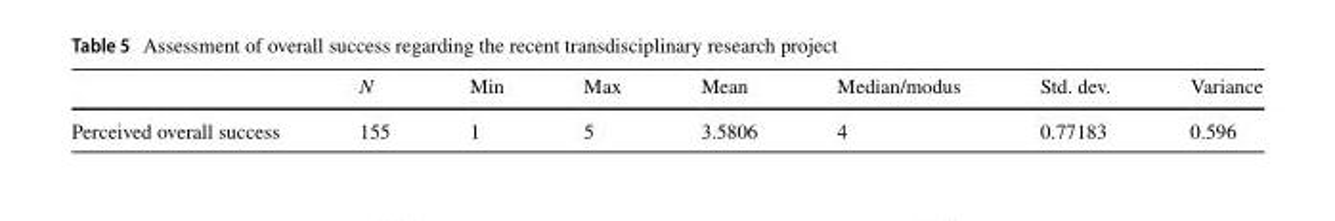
<table><thead><tr><td></td><td>N</td><td>Min</td><td>Max</td><td>Mean</td><td>Median/modus</td><td>Std. dev.</td><td>Variance</td></tr></thead><tbody><tr><td>Perceived overall success</td><td>155</td><td>1</td><td>5</td><td>3.5806</td><td>4</td><td>0.77183</td><td>0.596</td></tr></tbody></table>